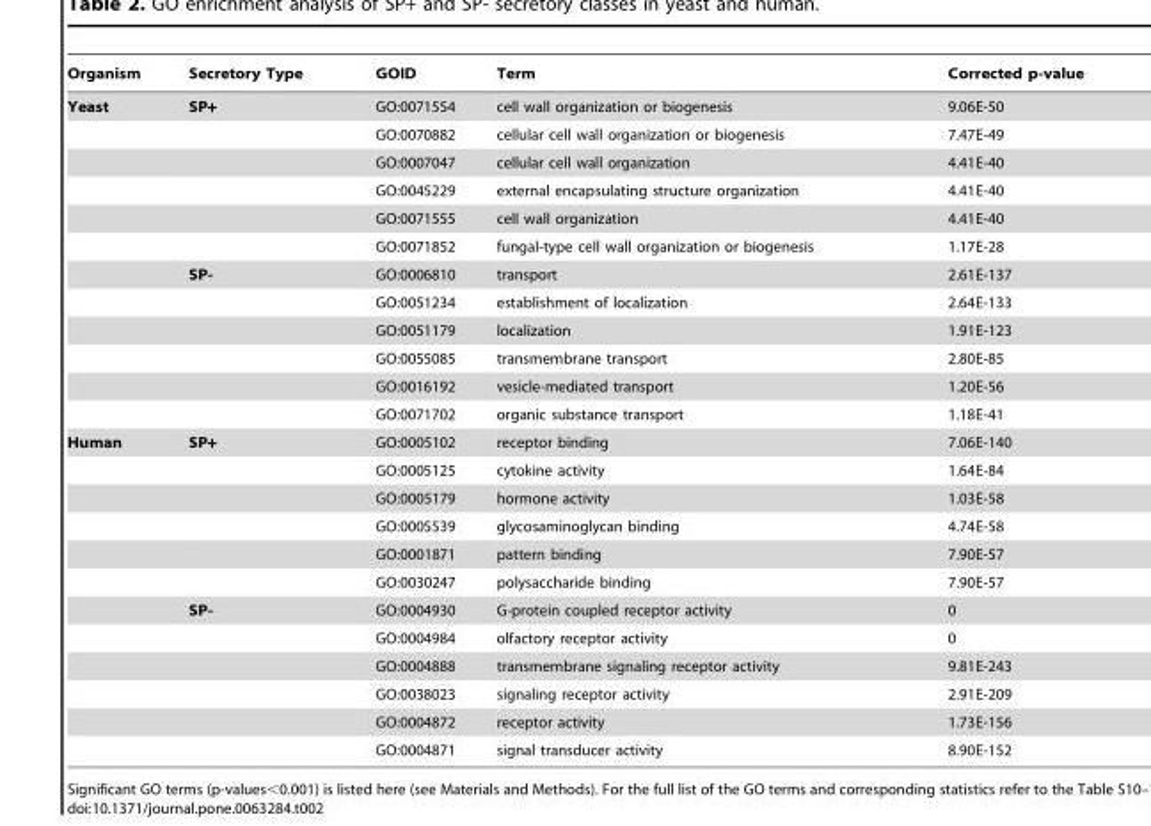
<table><thead><tr><td>Organism</td><td>Secretory Type</td><td>GOID</td><td>Term</td><td>Corrected p-value</td></tr></thead><tbody><tr><td rowspan="12">Yeast</td><td>SP+</td><td>GO:0071554</td><td>cell wall organization or biogenesis</td><td>9.06E-50</td></tr><tr><td></td><td>GO:0070882</td><td>cellular cell wall organization or biogenesis</td><td>7.47E-49</td></tr><tr><td></td><td>GO:0007047</td><td>cellular cell wall organization</td><td>4.41E-40</td></tr><tr><td></td><td>GO:0045229</td><td>external encapsulating structure organization</td><td>4.41E-40</td></tr><tr><td></td><td>GO:0071555</td><td>cell wall organization</td><td>4.41E-40</td></tr><tr><td></td><td>GO:0071852</td><td>fungal-type cell wall organization or biogenesis</td><td>1.17E-28</td></tr><tr><td>SP-</td><td>GO:0006810</td><td>transport</td><td>2.61E-137</td></tr><tr><td></td><td>GO:0051234</td><td>establishment of localization</td><td>2.64E-133</td></tr><tr><td></td><td>GO:0051179</td><td>localization</td><td>1.91E-123</td></tr><tr><td></td><td>GO:0055085</td><td>transmembrane transport</td><td>2.80E-85</td></tr><tr><td></td><td>GO:0016192</td><td>vesicle-mediated transport</td><td>1.20E-56</td></tr><tr><td></td><td>GO:0071702</td><td>organic substance transport</td><td>1.18E-41</td></tr><tr><td rowspan="12">Human</td><td>SP+</td><td>GO:0005102</td><td>receptor binding</td><td>7.06E-140</td></tr><tr><td></td><td>GO:0005125</td><td>cytokine activity</td><td>1.64E-84</td></tr><tr><td></td><td>GO:0005179</td><td>hormone activity</td><td>1.03E-58</td></tr><tr><td></td><td>GO:0005539</td><td>glycosaminoglycan binding</td><td>4.74E-58</td></tr><tr><td></td><td>GO:0001871</td><td>pattern binding</td><td>7.90E-57</td></tr><tr><td></td><td>GO:0030247</td><td>polysaccharide binding</td><td>7.90E-57</td></tr><tr><td>SP-</td><td>GO:0004930</td><td>G-protein coupled receptor activity</td><td>0</td></tr><tr><td></td><td>GO:0004984</td><td>olfactory receptor activity</td><td>0</td></tr><tr><td></td><td>GO:0004888</td><td>transmembrane signaling receptor activity</td><td>9.81E-243</td></tr><tr><td></td><td>GO:0038023</td><td>signaling receptor activity</td><td>2.91E-209</td></tr><tr><td></td><td>GO:0004872</td><td>receptor activity</td><td>1.73E-156</td></tr><tr><td></td><td>GO:0004871</td><td>signal transducer activity</td><td>8.90E-152</td></tr></tbody></table>